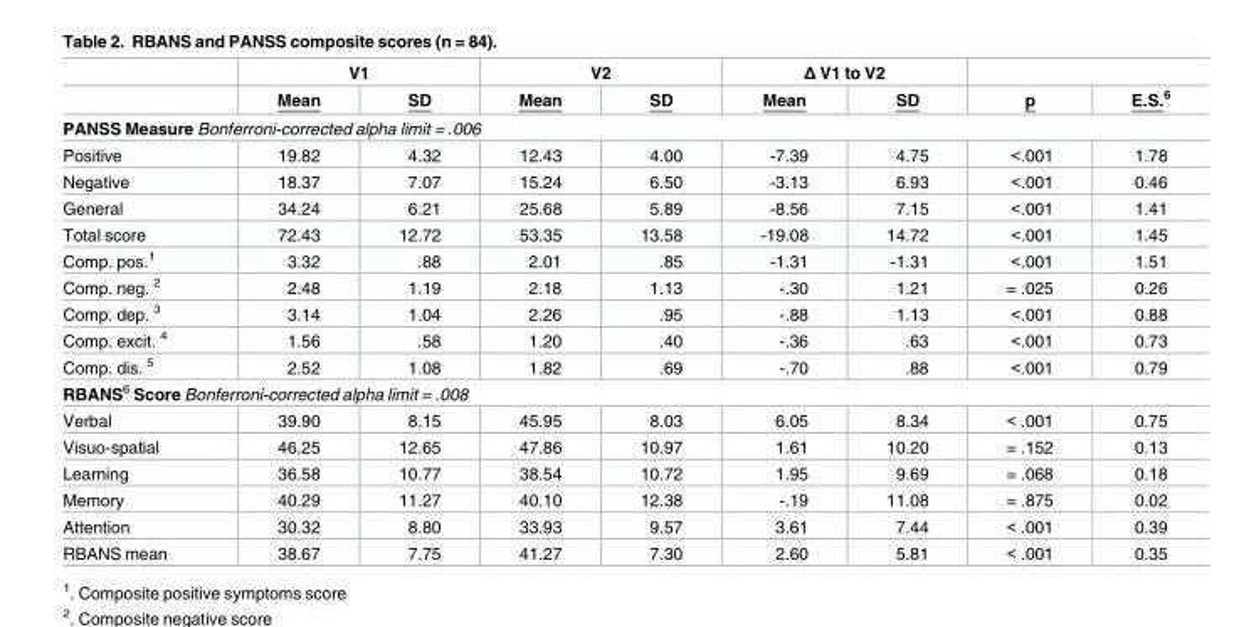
<table><thead><tr><td rowspan="2"></td><td colspan="2">V1</td><td colspan="2">V2</td><td colspan="2">Δ V1 to V2</td><td rowspan="2">p</td><td rowspan="2">E.S.<sup>6</sup></td></tr><tr><td>Mean</td><td>SD</td><td>Mean</td><td>SD</td><td>Mean</td><td>SD</td></tr></thead><tbody><tr><td colspan="9">PANSS Measure Bonferroni-corrected alpha limit = .006</td></tr><tr><td>Positive</td><td>19.82</td><td>4.32</td><td>12.43</td><td>4.00</td><td>-7.39</td><td>4.75</td><td>&lt;.001</td><td>1.78</td></tr><tr><td>Negative</td><td>18.37</td><td>7.07</td><td>15.24</td><td>6.50</td><td>-3.13</td><td>6.93</td><td>&lt;.001</td><td>0.46</td></tr><tr><td>General</td><td>34.24</td><td>6.21</td><td>25.68</td><td>5.89</td><td>-8.56</td><td>7.15</td><td>&lt;.001</td><td>1.41</td></tr><tr><td>Total score</td><td>72.43</td><td>12.72</td><td>53.35</td><td>13.58</td><td>-19.08</td><td>14.72</td><td>&lt;.001</td><td>1.45</td></tr><tr><td>Comp. pos.<sup>1</sup></td><td>3.32</td><td>.88</td><td>2.01</td><td>.85</td><td>-1.31</td><td>-1.31</td><td>&lt;.001</td><td>1.51</td></tr><tr><td>Comp. neg. <sup>2</sup></td><td>2.48</td><td>1.19</td><td>2.18</td><td>1.13</td><td>-.30</td><td>1.21</td><td>= .025</td><td>0.26</td></tr><tr><td>Comp. dep. <sup>3</sup></td><td>3.14</td><td>1.04</td><td>2.26</td><td>.95</td><td>-.88</td><td>1.13</td><td>&lt;.001</td><td>0.88</td></tr><tr><td>Comp. excit. <sup>4</sup></td><td>1.56</td><td>.58</td><td>1.20</td><td>.40</td><td>-.36</td><td>.63</td><td>&lt;.001</td><td>0.73</td></tr><tr><td>Comp. dis. <sup>5</sup></td><td>2.52</td><td>1.08</td><td>1.82</td><td>.69</td><td>-.70</td><td>.88</td><td>&lt;.001</td><td>0.79</td></tr><tr><td colspan="9">RBANS<sup>6</sup> Score Bonferroni-corrected alpha limit = .008</td></tr><tr><td>Verbal</td><td>39.90</td><td>8.15</td><td>45.95</td><td>8.03</td><td>6.05</td><td>8.34</td><td>&lt; .001</td><td>0.75</td></tr><tr><td>Visuo-spatial</td><td>46.25</td><td>12.65</td><td>47.86</td><td>10.97</td><td>1.61</td><td>10.20</td><td>= .152</td><td>0.13</td></tr><tr><td>Learning</td><td>36.58</td><td>10.77</td><td>38.54</td><td>10.72</td><td>1.95</td><td>9.69</td><td>= .068</td><td>0.18</td></tr><tr><td>Memory</td><td>40.29</td><td>11.27</td><td>40.10</td><td>12.38</td><td>-.19</td><td>11.08</td><td>= .875</td><td>0.02</td></tr><tr><td>Attention</td><td>30.32</td><td>8.80</td><td>33.93</td><td>9.57</td><td>3.61</td><td>7.44</td><td>&lt; .001</td><td>0.39</td></tr><tr><td>RBANS mean</td><td>38.67</td><td>7.75</td><td>41.27</td><td>7.30</td><td>2.60</td><td>5.81</td><td>&lt; .001</td><td>0.35</td></tr></tbody></table>